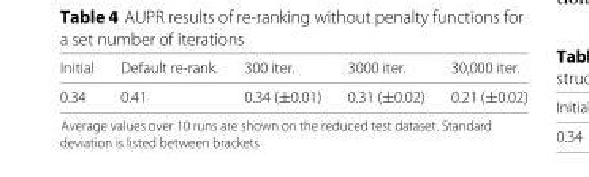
<table><thead><tr><td>Initial</td><td>Default re-rank.</td><td>300 iter.</td><td>3000 iter.</td><td>30,000 iter.</td></tr></thead><tbody><tr><td>0.34</td><td>0.41</td><td>0.34 (±0.01)</td><td>0.31 (±0.02)</td><td>0.21 (±0.02)</td></tr></tbody></table>